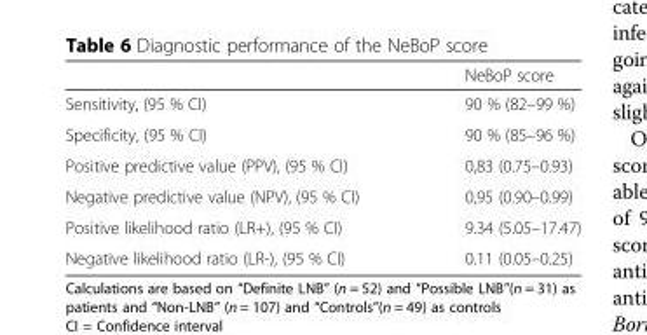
<table><thead><tr><td></td><td>NeBoP score</td></tr></thead><tbody><tr><td>Sensitivity, (95 % CI)</td><td>90 % (82–99 %)</td></tr><tr><td>Specificity, (95 % CI)</td><td>90 % (85–96 %)</td></tr><tr><td>Positive predictive value (PPV), (95 % CI)</td><td>0,83 (0.75–0.93)</td></tr><tr><td>Negative predictive value (NPV), (95 % CI)</td><td>0,95 (0.90–0.99)</td></tr><tr><td>Positive likelihood ratio (LR+), (95 % CI)</td><td>9.34 (5.05–17.47)</td></tr><tr><td>Negative likelihood ratio (LR-), (95 % CI)</td><td>0.11 (0.05–0.25)</td></tr></tbody></table>